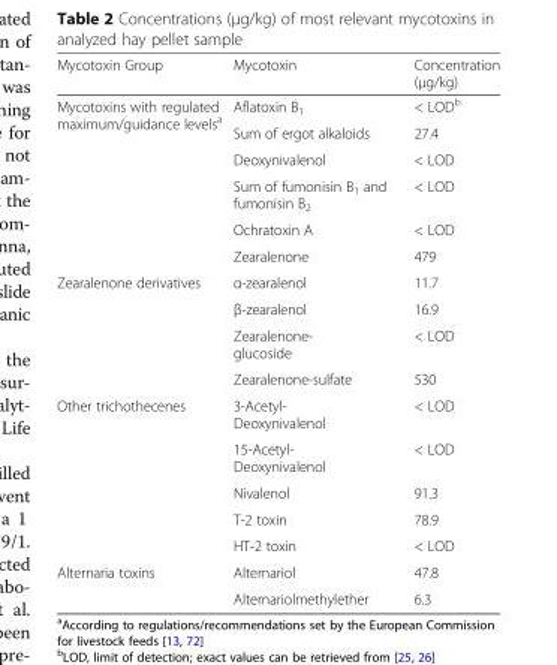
<table><thead><tr><td>Mycotoxin Group</td><td>Mycotoxin</td><td>Concentration (μg/kg)</td></tr></thead><tbody><tr><td rowspan="6">Mycotoxins with regulated maximum/guidance levels<sup>a</sup></td><td>Aflatoxin B<sub>1</sub></td><td>&lt; LOD<sup>b</sup></td></tr><tr><td>Sum of ergot alkaloids</td><td>27.4</td></tr><tr><td>Deoxynivalenol</td><td>&lt; LOD</td></tr><tr><td>Sum of fumonisin B<sub>1</sub> and fumonisin B<sub>2</sub></td><td>&lt; LOD</td></tr><tr><td>Ochratoxin A</td><td>&lt; LOD</td></tr><tr><td>Zearalenone</td><td>479</td></tr><tr><td rowspan="4">Zearalenone derivatives</td><td>α-zearalenol</td><td>11.7</td></tr><tr><td>β-zearalenol</td><td>16.9</td></tr><tr><td>Zearalenone- glucoside</td><td>&lt; LOD</td></tr><tr><td>Zearalenone-sulfate</td><td>530</td></tr><tr><td rowspan="5">Other trichothecenes</td><td>3-Acetyl- Deoxynivalenol</td><td>&lt; LOD</td></tr><tr><td>15-Acetyl- Deoxynivalenol</td><td>&lt; LOD</td></tr><tr><td>Nivalenol</td><td>91.3</td></tr><tr><td>T-2 toxin</td><td>78.9</td></tr><tr><td>HT-2 toxin</td><td>&lt; LOD</td></tr><tr><td rowspan="2">Alternaria toxins</td><td>Alternariol</td><td>47.8</td></tr><tr><td>Alternariolmethylether</td><td>6.3</td></tr></tbody></table>